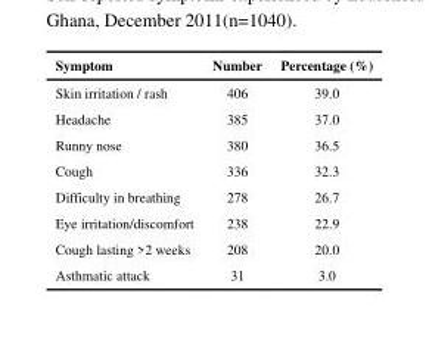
<table><thead><tr><td>Symptom</td><td>Number</td><td>Percentage (%)</td></tr></thead><tbody><tr><td>Skin irritation / rash</td><td>406</td><td>39.0</td></tr><tr><td>Headache</td><td>385</td><td>37.0</td></tr><tr><td>Runny nose</td><td>380</td><td>36.5</td></tr><tr><td>Cough</td><td>336</td><td>32.3</td></tr><tr><td>Difficulty in breathing</td><td>278</td><td>26.7</td></tr><tr><td>Eye irritation/discomfort</td><td>238</td><td>22.9</td></tr><tr><td>Cough lasting &gt;2 weeks</td><td>208</td><td>20.0</td></tr><tr><td>Asthmatic attack</td><td>31</td><td>3.0</td></tr></tbody></table>